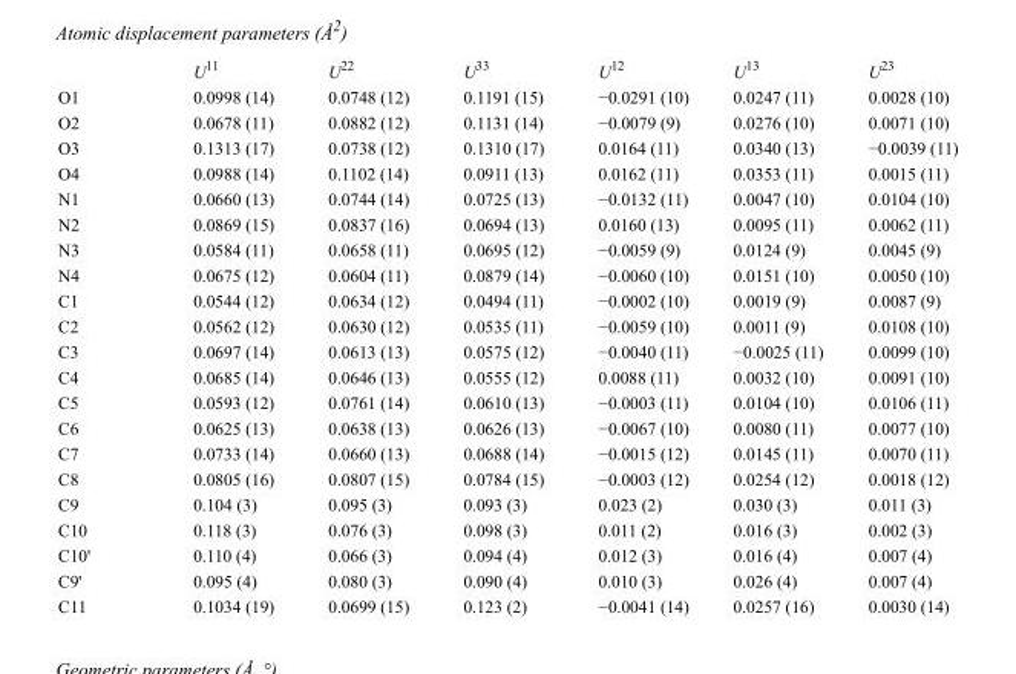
<table><thead><tr><td></td><td>U<sup>11</sup></td><td>U<sup>22</sup></td><td>U<sup>33</sup></td><td>U<sup>12</sup></td><td>U<sup>13</sup></td><td>U<sup>23</sup></td></tr></thead><tbody><tr><td>O1</td><td>0.0998 (14)</td><td>0.0748 (12)</td><td>0.1191 (15)</td><td>−0.0291 (10)</td><td>0.0247 (11)</td><td>0.0028 (10)</td></tr><tr><td>O2</td><td>0.0678 (11)</td><td>0.0882 (12)</td><td>0.1131 (14)</td><td>−0.0079 (9)</td><td>0.0276 (10)</td><td>0.0071 (10)</td></tr><tr><td>O3</td><td>0.1313 (17)</td><td>0.0738 (12)</td><td>0.1310 (17)</td><td>0.0164 (11)</td><td>0.0340 (13)</td><td>−0.0039 (11)</td></tr><tr><td>O4</td><td>0.0988 (14)</td><td>0.1102 (14)</td><td>0.0911 (13)</td><td>0.0162 (11)</td><td>0.0353 (11)</td><td>0.0015 (11)</td></tr><tr><td>N1</td><td>0.0660 (13)</td><td>0.0744 (14)</td><td>0.0725 (13)</td><td>−0.0132 (11)</td><td>0.0047 (10)</td><td>0.0104 (10)</td></tr><tr><td>N2</td><td>0.0869 (15)</td><td>0.0837 (16)</td><td>0.0694 (13)</td><td>0.0160 (13)</td><td>0.0095 (11)</td><td>0.0062 (11)</td></tr><tr><td>N3</td><td>0.0584 (11)</td><td>0.0658 (11)</td><td>0.0695 (12)</td><td>−0.0059 (9)</td><td>0.0124 (9)</td><td>0.0045 (9)</td></tr><tr><td>N4</td><td>0.0675 (12)</td><td>0.0604 (11)</td><td>0.0879 (14)</td><td>−0.0060 (10)</td><td>0.0151 (10)</td><td>0.0050 (10)</td></tr><tr><td>C1</td><td>0.0544 (12)</td><td>0.0634 (12)</td><td>0.0494 (11)</td><td>−0.0002 (10)</td><td>0.0019 (9)</td><td>0.0087 (9)</td></tr><tr><td>C2</td><td>0.0562 (12)</td><td>0.0630 (12)</td><td>0.0535 (11)</td><td>−0.0059 (10)</td><td>0.0011 (9)</td><td>0.0108 (10)</td></tr><tr><td>C3</td><td>0.0697 (14)</td><td>0.0613 (13)</td><td>0.0575 (12)</td><td>−0.0040 (11)</td><td>−0.0025 (11)</td><td>0.0099 (10)</td></tr><tr><td>C4</td><td>0.0685 (14)</td><td>0.0646 (13)</td><td>0.0555 (12)</td><td>0.0088 (11)</td><td>0.0032 (10)</td><td>0.0091 (10)</td></tr><tr><td>C5</td><td>0.0593 (12)</td><td>0.0761 (14)</td><td>0.0610 (13)</td><td>−0.0003 (11)</td><td>0.0104 (10)</td><td>0.0106 (11)</td></tr><tr><td>C6</td><td>0.0625 (13)</td><td>0.0638 (13)</td><td>0.0626 (13)</td><td>−0.0067 (10)</td><td>0.0080 (11)</td><td>0.0077 (10)</td></tr><tr><td>C7</td><td>0.0733 (14)</td><td>0.0660 (13)</td><td>0.0688 (14)</td><td>−0.0015 (12)</td><td>0.0145 (11)</td><td>0.0070 (11)</td></tr><tr><td>C8</td><td>0.0805 (16)</td><td>0.0807 (15)</td><td>0.0784 (15)</td><td>−0.0003 (12)</td><td>0.0254 (12)</td><td>0.0018 (12)</td></tr><tr><td>C9</td><td>0.104 (3)</td><td>0.095 (3)</td><td>0.093 (3)</td><td>0.023 (2)</td><td>0.030 (3)</td><td>0.011 (3)</td></tr><tr><td>C10</td><td>0.118 (3)</td><td>0.076 (3)</td><td>0.098 (3)</td><td>0.011 (2)</td><td>0.016 (3)</td><td>0.002 (3)</td></tr><tr><td>C10&#x27;</td><td>0.110 (4)</td><td>0.066 (3)</td><td>0.094 (4)</td><td>0.012 (3)</td><td>0.016 (4)</td><td>0.007 (4)</td></tr><tr><td>C9&#x27;</td><td>0.095 (4)</td><td>0.080 (3)</td><td>0.090 (4)</td><td>0.010 (3)</td><td>0.026 (4)</td><td>0.007 (4)</td></tr><tr><td>C11</td><td>0.1034 (19)</td><td>0.0699 (15)</td><td>0.123 (2)</td><td>−0.0041 (14)</td><td>0.0257 (16)</td><td>0.0030 (14)</td></tr></tbody></table>